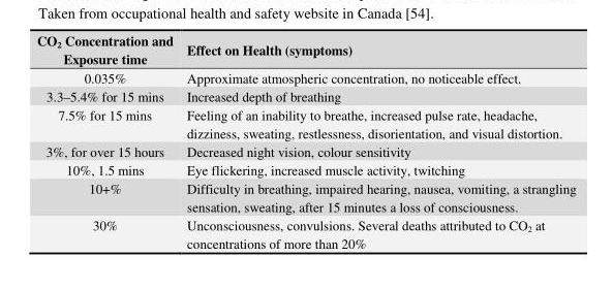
<table><thead><tr><td>CO<sub>2</sub> Concentration and Exposure time</td><td>Effect on Health (symptoms)</td></tr></thead><tbody><tr><td>0.035%</td><td>Approximate atmospheric concentration, no noticeable effect.</td></tr><tr><td>3.3–5.4% for 15 mins</td><td>Increased depth of breathing</td></tr><tr><td>7.5% for 15 mins</td><td>Feeling of an inability to breathe, increased pulse rate, headache, dizziness, sweating, restlessness, disorientation, and visual distortion.</td></tr><tr><td>3%, for over 15 hours</td><td>Decreased night vision, colour sensitivity</td></tr><tr><td>10%, 1.5 mins</td><td>Eye flickering, increased muscle activity, twitching</td></tr><tr><td>10+%</td><td>Difficulty in breathing, impaired hearing, nausea, vomiting, a strangling sensation, sweating, after 15 minutes a loss of consciousness.</td></tr><tr><td>30%</td><td>Unconsciousness, convulsions. Several deaths attributed to CO<sub>2</sub> at concentrations of more than 20%</td></tr></tbody></table>